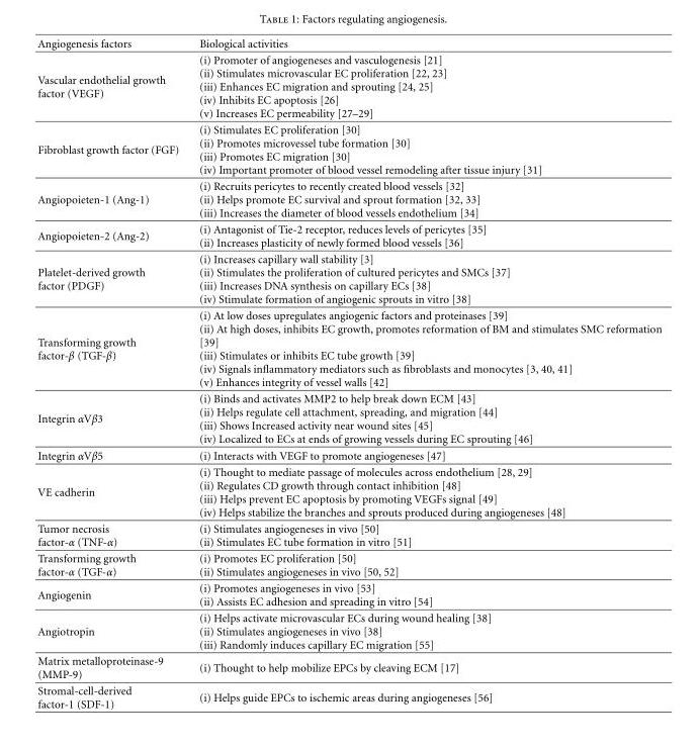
<table><thead><tr><td>Angiogenesis factors</td><td>Biological activities</td></tr></thead><tbody><tr><td>Vascular endothelial growth factor (VEGF)</td><td>(i) Promoter of angiogeneses and vasculogenesis [21] (ii) Stimulates microvascular EC proliferation [22, 23] (iii) Enhances EC migration and sprouting [24, 25] (iv) Inhibits EC apoptosis [26] (v) Increases EC permeability [27–29]</td></tr><tr><td>Fibroblast growth factor (FGF)</td><td>(i) Stimulates EC proliferation [30] (ii) Promotes microvessel tube formation [30] (iii) Promotes EC migration [30] (iv) Important promoter of blood vessel remodeling after tissue injury [31]</td></tr><tr><td>Angiopoieten-1 (Ang-1)</td><td>(i) Recruits pericytes to recently created blood vessels [32] (ii) Helps promote EC survival and sprout formation [32, 33] (iii) Increases the diameter of blood vessels endothelium [34]</td></tr><tr><td>Angiopoieten-2 (Ang-2)</td><td>(i) Antagonist of Tie-2 receptor, reduces levels of pericytes [35] (ii) Increases plasticity of newly formed blood vessels [36]</td></tr><tr><td>Platelet-derived growth factor (PDGF)</td><td>(i) Increases capillary wall stability [3] (ii) Stimulates the proliferation of cultured pericytes and SMCs [37] (iii) Increases DNA synthesis on capillary ECs [38] (iv) Stimulate formation of angiogenic sprouts in vitro [38]</td></tr><tr><td>Transforming growth factor-β (TGF-β)</td><td>(i) At low doses upregulates angiogenic factors and proteinases [39] (ii) At high doses, inhibits EC growth, promotes reformation of BM and stimulates SMC reformation [39] (iii) Stimulates or inhibits EC tube growth [39] (iv) Signals inflammatory mediators such as fibroblasts and monocytes [3, 40, 41] (v) Enhances integrity of vessel walls [42]</td></tr><tr><td>Integrin αVβ3</td><td>(i) Binds and activates MMP2 to help break down ECM [43] (ii) Helps regulate cell attachment, spreading, and migration [44] (iii) Shows Increased activity near wound sites [45] (iv) Localized to ECs at ends of growing vessels during EC sprouting [46]</td></tr><tr><td>Integrin αVβ5</td><td>(i) Interacts with VEGF to promote angiogeneses [47]</td></tr><tr><td>VE cadherin</td><td>(i) Thought to mediate passage of molecules across endothelium [28, 29] (ii) Regulates CD growth through contact inhibition [48] (iii) Helps prevent EC apoptosis by promoting VEGFs signal [49] (iv) Helps stabilize the branches and sprouts produced during angiogeneses [48]</td></tr><tr><td>Tumor necrosis factor-α (TNF-α)</td><td>(i) Stimulates angiogeneses in vivo [50] (ii) Stimulates EC tube formation in vitro [51]</td></tr><tr><td>Transforming growth factor-α (TGF-α)</td><td>(i) Promotes EC proliferation [50] (ii) Stimulates angiogeneses in vivo [50, 52]</td></tr><tr><td>Angiogenin</td><td>(i) Promotes angiogeneses in vivo [53] (ii) Assists EC adhesion and spreading in vitro [54]</td></tr><tr><td>Angiotropin</td><td>(i) Helps activate microvascular ECs during wound healing [38] (ii) Stimulates angiogeneses in vivo [38] (iii) Randomly induces capillary EC migration [55]</td></tr><tr><td>Matrix metalloproteinase-9 (MMP-9)</td><td>(i) Thought to help mobilize EPCs by cleaving ECM [17]</td></tr><tr><td>Stromal-cell-derived factor-1 (SDF-1)</td><td>(i) Helps guide EPCs to ischemic areas during angiogeneses [56]</td></tr></tbody></table>